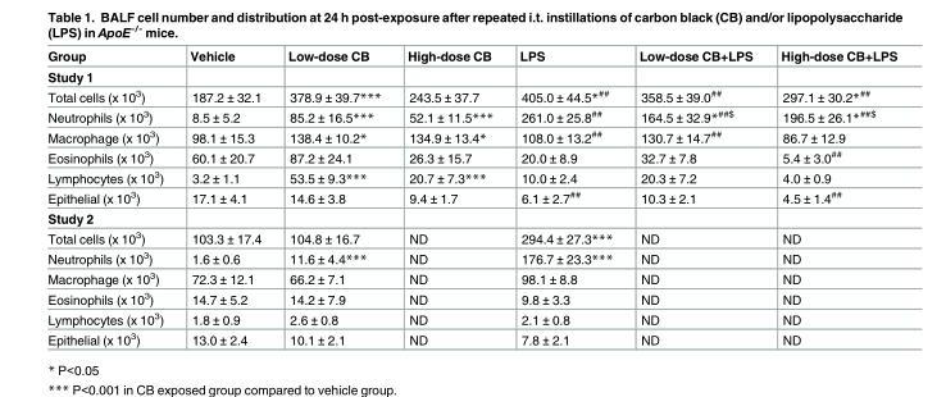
<table><thead><tr><td>Group</td><td>Vehicle</td><td>Low-dose CB</td><td>High-dose CB</td><td>LPS</td><td>Low-dose CB+LPS</td><td>High-dose CB+LPS</td></tr></thead><tbody><tr><td colspan="7">Study 1</td></tr><tr><td>Total cells (x 10<sup>3</sup>)</td><td>187.2 ± 32.1</td><td>378.9 ± 39.7***</td><td>243.5 ± 37.7</td><td>405.0 ± 44.5*<sup>##</sup></td><td>358.5 ± 39.0<sup>##</sup></td><td>297.1 ± 30.2*<sup>##</sup></td></tr><tr><td>Neutrophils (x 10<sup>3</sup>)</td><td>8.5 ± 5.2</td><td>85.2 ± 16.5***</td><td>52.1 ± 11.5***</td><td>261.0 ± 25.8<sup>##</sup></td><td>164.5 ± 32.9*<sup>##$</sup></td><td>196.5 ± 26.1*<sup>##$</sup></td></tr><tr><td>Macrophage (x 10<sup>3</sup>)</td><td>98.1 ± 15.3</td><td>138.4 ± 10.2*</td><td>134.9 ± 13.4*</td><td>108.0 ± 13.2<sup>##</sup></td><td>130.7 ± 14.7<sup>##</sup></td><td>86.7 ± 12.9</td></tr><tr><td>Eosinophils (x 10<sup>3</sup>)</td><td>60.1 ± 20.7</td><td>87.2 ± 24.1</td><td>26.3 ± 15.7</td><td>20.0 ± 8.9</td><td>32.7 ± 7.8</td><td>5.4 ± 3.0<sup>##</sup></td></tr><tr><td>Lymphocytes (x 10<sup>3</sup>)</td><td>3.2 ± 1.1</td><td>53.5 ± 9.3***</td><td>20.7 ± 7.3***</td><td>10.0 ± 2.4</td><td>20.3 ± 7.2</td><td>4.0 ± 0.9</td></tr><tr><td>Epithelial (x 10<sup>3</sup>)</td><td>17.1 ± 4.1</td><td>14.6 ± 3.8</td><td>9.4 ± 1.7</td><td>6.1 ± 2.7<sup>##</sup></td><td>10.3 ± 2.1</td><td>4.5 ± 1.4<sup>##</sup></td></tr><tr><td colspan="7">Study 2</td></tr><tr><td>Total cells (x 10<sup>3</sup>)</td><td>103.3 ± 17.4</td><td>104.8 ± 16.7</td><td>ND</td><td>294.4 ± 27.3***</td><td>ND</td><td>ND</td></tr><tr><td>Neutrophils (x 10<sup>3</sup>)</td><td>1.6 ± 0.6</td><td>11.6 ± 4.4***</td><td>ND</td><td>176.7 ± 23.3***</td><td>ND</td><td>ND</td></tr><tr><td>Macrophage (x 10<sup>3</sup>)</td><td>72.3 ± 12.1</td><td>66.2 ± 7.1</td><td>ND</td><td>98.1 ± 8.8</td><td>ND</td><td>ND</td></tr><tr><td>Eosinophils (x 10<sup>3</sup>)</td><td>14.7 ± 5.2</td><td>14.2 ± 7.9</td><td>ND</td><td>9.8 ± 3.3</td><td>ND</td><td>ND</td></tr><tr><td>Lymphocytes (x 10<sup>3</sup>)</td><td>1.8 ± 0.9</td><td>2.6 ± 0.8</td><td>ND</td><td>2.1 ± 0.8</td><td>ND</td><td>ND</td></tr><tr><td>Epithelial (x 10<sup>3</sup>)</td><td>13.0 ± 2.4</td><td>10.1 ± 2.1</td><td>ND</td><td>7.8 ± 2.1</td><td>ND</td><td>ND</td></tr></tbody></table>